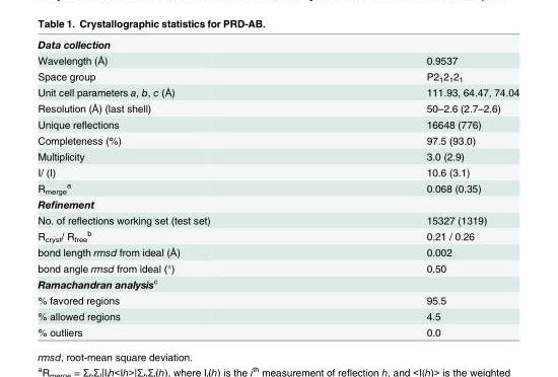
<table><tbody><tr><td colspan="2">Data collection</td></tr><tr><td>Wavelength (Å)</td><td>0.9537</td></tr><tr><td>Space group</td><td>P2<sub>1</sub>2<sub>1</sub>2<sub>1</sub></td></tr><tr><td>Unit cell parameters a, b, c (Å)</td><td>111.93, 64.47, 74.04</td></tr><tr><td>Resolution (Å) (last shell)</td><td>50–2.6 (2.7–2.6)</td></tr><tr><td>Unique reflections</td><td>16648 (776)</td></tr><tr><td>Completeness (%)</td><td>97.5 (93.0)</td></tr><tr><td>Multiplicity</td><td>3.0 (2.9)</td></tr><tr><td>I/ (I)</td><td>10.6 (3.1)</td></tr><tr><td>R<sub>merge</sub> <sup>a</sup></td><td>0.068 (0.35)</td></tr><tr><td colspan="2">Refinement</td></tr><tr><td>No. of reflections working set (test set)</td><td>15327 (1319)</td></tr><tr><td>R<sub>cryst</sub>/ R<sub>free</sub> <sup>b</sup></td><td>0.21 / 0.26</td></tr><tr><td>bond length rmsd from ideal (Å)</td><td>0.002</td></tr><tr><td>bond angle rmsd from ideal (°)</td><td>0.50</td></tr><tr><td colspan="2">Ramachandran analysis<sup>c</sup></td></tr><tr><td>% favored regions</td><td>95.5</td></tr><tr><td>% allowed regions</td><td>4.5</td></tr><tr><td>% outliers</td><td>0.0</td></tr></tbody></table>